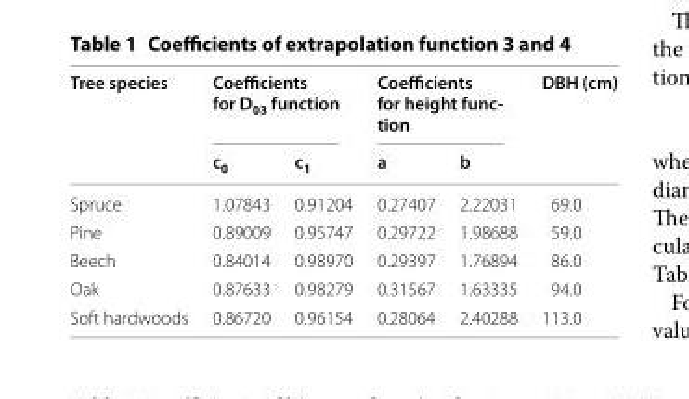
<table><thead><tr><td rowspan="2">Tree species</td><td colspan="2">Coefficients for D<sub>03</sub> function</td><td colspan="2">Coefficients for height func- tion</td><td rowspan="2">DBH (cm)</td></tr><tr><td>c<sub>0</sub></td><td>c<sub>1</sub></td><td>a</td><td>b</td></tr></thead><tbody><tr><td>Spruce</td><td>1.07843</td><td>0.91204</td><td>0.27407</td><td>2.22031</td><td>69.0</td></tr><tr><td>Pine</td><td>0.89009</td><td>0.95747</td><td>0.29722</td><td>1.98688</td><td>59.0</td></tr><tr><td>Beech</td><td>0.84014</td><td>0.98970</td><td>0.29397</td><td>1.76894</td><td>86.0</td></tr><tr><td>Oak</td><td>0.87633</td><td>0.98279</td><td>0.31567</td><td>1.63335</td><td>94.0</td></tr><tr><td>Soft hardwoods</td><td>0.86720</td><td>0.96154</td><td>0.28064</td><td>2.40288</td><td>113.0</td></tr></tbody></table>